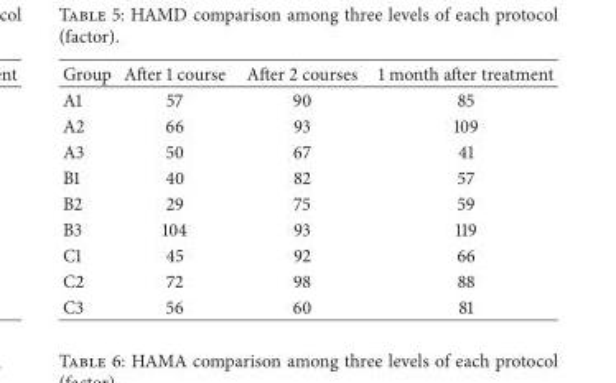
<table><thead><tr><td>Group</td><td>After 1 course</td><td>After 2 courses</td><td>1 month after treatment</td></tr></thead><tbody><tr><td>A1</td><td>57</td><td>90</td><td>85</td></tr><tr><td>A2</td><td>66</td><td>93</td><td>109</td></tr><tr><td>A3</td><td>50</td><td>67</td><td>41</td></tr><tr><td>B1</td><td>40</td><td>82</td><td>57</td></tr><tr><td>B2</td><td>29</td><td>75</td><td>59</td></tr><tr><td>B3</td><td>104</td><td>93</td><td>119</td></tr><tr><td>C1</td><td>45</td><td>92</td><td>66</td></tr><tr><td>C2</td><td>72</td><td>98</td><td>88</td></tr><tr><td>C3</td><td>56</td><td>60</td><td>81</td></tr></tbody></table>